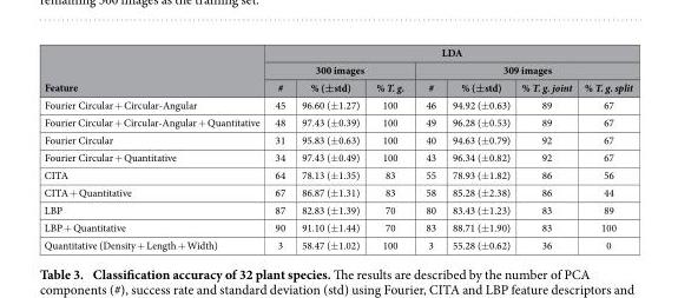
<table><thead><tr><td rowspan="3">Feature</td><td colspan="7">LDA</td></tr><tr><td colspan="3">300 images</td><td colspan="4">309 images</td></tr><tr><td>#</td><td>% (±std)</td><td>% T. g.</td><td>#</td><td>% (±std)</td><td>% T. g. joint</td><td>% T. g. split</td></tr></thead><tbody><tr><td>Fourier Circular + Circular-Angular</td><td>45</td><td>96.60 (± 1.27)</td><td>100</td><td>46</td><td>94.92 (± 0.63)</td><td>89</td><td>67</td></tr><tr><td>Fourier Circular + Circular-Angular + Quantitative</td><td>48</td><td>97.43 (± 0.39)</td><td>100</td><td>49</td><td>96.28 (± 0.53)</td><td>89</td><td>67</td></tr><tr><td>Fourier Circular</td><td>31</td><td>95.83 (± 0.63)</td><td>100</td><td>40</td><td>94.63 (± 0.79)</td><td>92</td><td>67</td></tr><tr><td>Fourier Circular + Quantitative</td><td>34</td><td>97.43 (± 0.49)</td><td>100</td><td>43</td><td>96.34 (± 0.82)</td><td>92</td><td>67</td></tr><tr><td>CITA</td><td>64</td><td>78.13 (± 1.35)</td><td>83</td><td>55</td><td>78.93 (± 1.82)</td><td>86</td><td>56</td></tr><tr><td>CITA + Quantitative</td><td>67</td><td>86.87 (± 1.31)</td><td>83</td><td>58</td><td>85.28 (± 2.38)</td><td>86</td><td>44</td></tr><tr><td>LBP</td><td>87</td><td>82.83 (± 1.39)</td><td>70</td><td>80</td><td>83.43 (± 1.23)</td><td>83</td><td>89</td></tr><tr><td>LBP + Quantitative</td><td>90</td><td>91.10 (± 1.44)</td><td>70</td><td>83</td><td>88.71 (± 1.90)</td><td>83</td><td>100</td></tr><tr><td>Quantitative (Density + Length + Width)</td><td>3</td><td>58.47 (± 1.02)</td><td>100</td><td>3</td><td>55.28 (± 0.62)</td><td>36</td><td>0</td></tr></tbody></table>